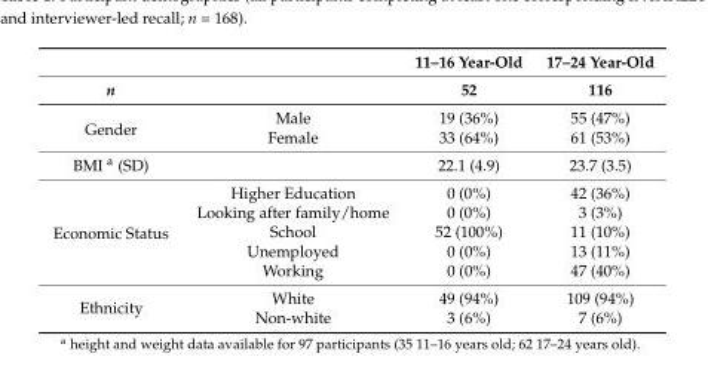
<table><thead><tr><td rowspan="2">n</td><td rowspan="2"></td><td rowspan="2">11–16 Year-Old 52</td><td rowspan="2">17–24 Year-Old 116</td></tr><tr></tr></thead><tbody><tr><td rowspan="2">Gender</td><td>Male</td><td>19 (36%)</td><td>55 (47%)</td></tr><tr><td>Female</td><td>33 (64%)</td><td>61 (53%)</td></tr><tr><td>BMI <sup>a</sup> (SD)</td><td></td><td>22.1 (4.9)</td><td>23.7 (3.5)</td></tr><tr><td rowspan="5">Economic Status</td><td>Higher Education</td><td>0 (0%)</td><td>42 (36%)</td></tr><tr><td>Looking after family/home</td><td>0 (0%)</td><td>3 (3%)</td></tr><tr><td>School</td><td>52 (100%)</td><td>11 (10%)</td></tr><tr><td>Unemployed</td><td>0 (0%)</td><td>13 (11%)</td></tr><tr><td>Working</td><td>0 (0%)</td><td>47 (40%)</td></tr><tr><td rowspan="2">Ethnicity</td><td>White</td><td>49 (94%)</td><td>109 (94%)</td></tr><tr><td>Non-white</td><td>3 (6%)</td><td>7 (6%)</td></tr></tbody></table>